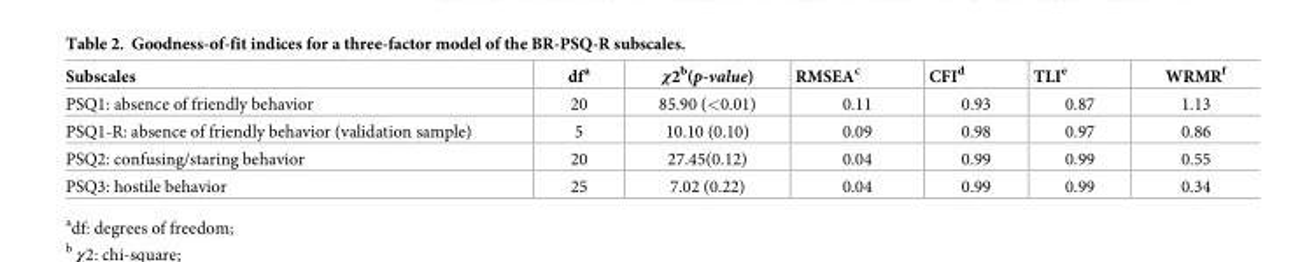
<table><thead><tr><td>Subscales</td><td>df<sup>a</sup></td><td>χ2<sup>b</sup>(p-value)</td><td>RMSEA<sup>c</sup></td><td>CFI<sup>d</sup></td><td>TLI<sup>e</sup></td><td>WRMR<sup>f</sup></td></tr></thead><tbody><tr><td>PSQ1: absence of friendly behavior</td><td>20</td><td>85.90 (&lt;0.01)</td><td>0.11</td><td>0.93</td><td>0.87</td><td>1.13</td></tr><tr><td>PSQ1-R: absence of friendly behavior (validation sample)</td><td>5</td><td>10.10 (0.10)</td><td>0.09</td><td>0.98</td><td>0.97</td><td>0.86</td></tr><tr><td>PSQ2: confusing/staring behavior</td><td>20</td><td>27.45(0.12)</td><td>0.04</td><td>0.99</td><td>0.99</td><td>0.55</td></tr><tr><td>PSQ3: hostile behavior</td><td>25</td><td>7.02 (0.22)</td><td>0.04</td><td>0.99</td><td>0.99</td><td>0.34</td></tr></tbody></table>